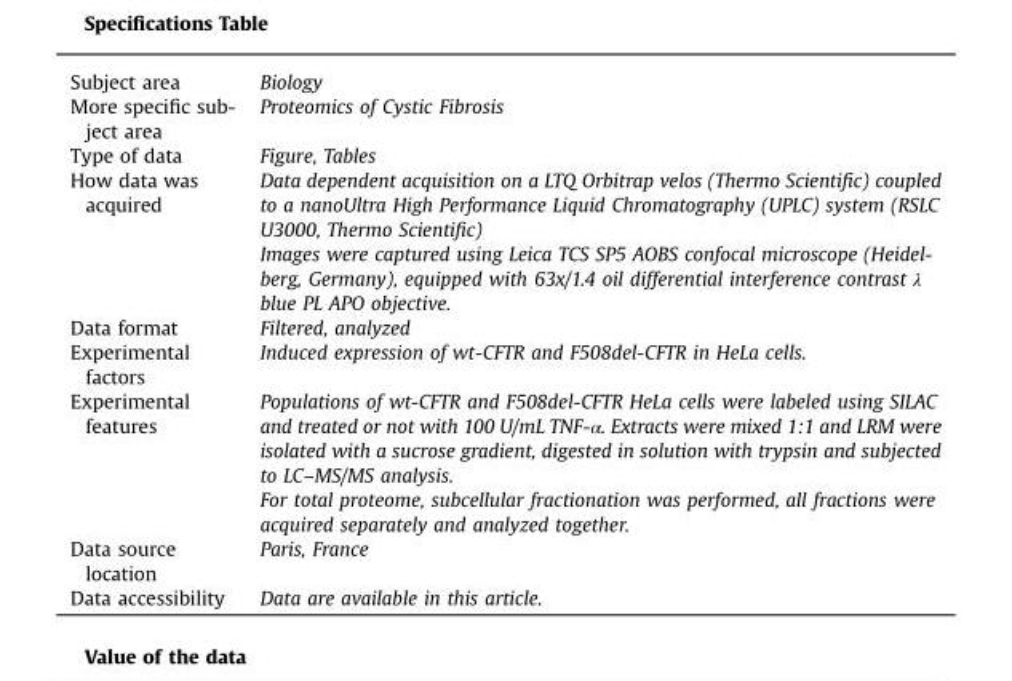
<table><tbody><tr><td>Subject area</td><td>Biology</td></tr><tr><td>More specific sub- ject area</td><td>Proteomics of Cystic Fibrosis</td></tr><tr><td>Type of data</td><td>Figure, Tables</td></tr><tr><td rowspan="2">How data was acquired</td><td>Data dependent acquisition on a LTQ Orbitrap velos (Thermo Scientific) coupled to a nanoUltra High Performance Liquid Chromatography (UPLC) system (RSLC U3000, Thermo Scientific)</td></tr><tr><td>Images were captured using Leica TCS SP5 AOBS confocal microscope (Heidel- berg, Germany), equipped with 63x/1.4 oil differential interference contrast λ blue PL APO objective.</td></tr><tr><td>Data format</td><td>Filtered, analyzed</td></tr><tr><td>Experimental factors</td><td>Induced expression of wt-CFTR and F508del-CFTR in HeLa cells.</td></tr><tr><td rowspan="2">Experimental features</td><td>Populations of wt-CFTR and F508del-CFTR HeLa cells were labeled using SILAC and treated or not with 100 U/mL TNF-α. Extracts were mixed 1:1 and LRM were isolated with a sucrose gradient, digested in solution with trypsin and subjected to LC–MS/MS analysis.</td></tr><tr><td>For total proteome, subcellular fractionation was performed, all fractions were acquired separately and analyzed together.</td></tr><tr><td>Data source location</td><td>Paris, France</td></tr><tr><td>Data accessibility</td><td>Data are available in this article.</td></tr></tbody></table>